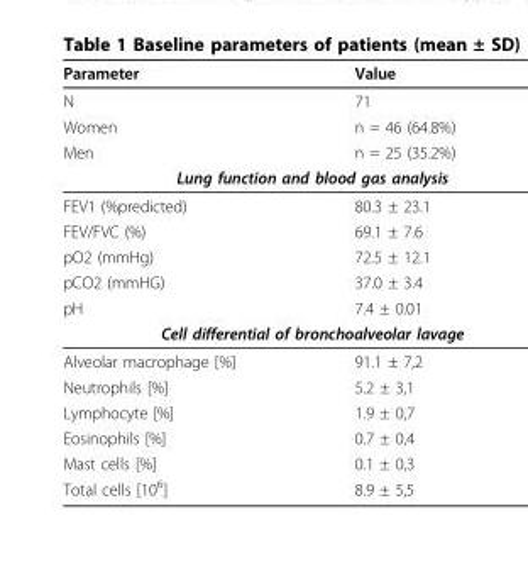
<table><thead><tr><td>Parameter</td><td>Value</td></tr></thead><tbody><tr><td>N</td><td>71</td></tr><tr><td>Women</td><td>n = 46 (64.8%)</td></tr><tr><td>Men</td><td>n = 25 (35.2%)</td></tr><tr><td colspan="2">Lung function and blood gas analysis</td></tr><tr><td>FEV1 (%predicted)</td><td>80.3 ± 23.1</td></tr><tr><td>FEV/FVC (%)</td><td>69.1 ± 7.6</td></tr><tr><td>pO2 (mmHg)</td><td>72.5 ± 12.1</td></tr><tr><td>pCO2 (mmHG)</td><td>37.0 ± 3.4</td></tr><tr><td>pH</td><td>7.4 ± 0.01</td></tr><tr><td colspan="2">Cell differential of bronchoalveolar lavage</td></tr><tr><td>Alveolar macrophage [%]</td><td>91.1 ± 7,2</td></tr><tr><td>Neutrophils [%]</td><td>5.2 ± 3,1</td></tr><tr><td>Lymphocyte [%]</td><td>1.9 ± 0,7</td></tr><tr><td>Eosinophils [%]</td><td>0.7 ± 0,4</td></tr><tr><td>Mast cells [%]</td><td>0.1 ± 0,3</td></tr><tr><td>Total cells [10<sup>6</sup>]</td><td>8.9 ± 5,5</td></tr></tbody></table>